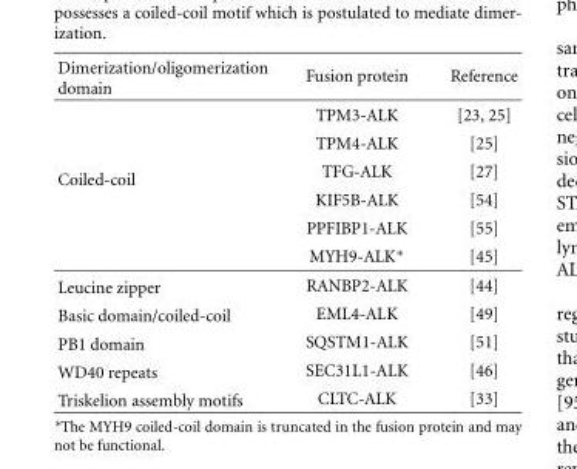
<table><thead><tr><td>Dimerization/oligomerization domain</td><td>Fusion protein</td><td>Reference</td></tr></thead><tbody><tr><td rowspan="6">Coiled-coil</td><td>TPM3-ALK</td><td>[23, 25]</td></tr><tr><td>TPM4-ALK</td><td>[25]</td></tr><tr><td>TFG-ALK</td><td>[27]</td></tr><tr><td>KIF5B-ALK</td><td>[54]</td></tr><tr><td>PPFIBP1-ALK</td><td>[55]</td></tr><tr><td>MYH9-ALK∗</td><td>[45]</td></tr><tr><td>Leucine zipper</td><td>RANBP2-ALK</td><td>[44]</td></tr><tr><td>Basic domain/coiled-coil</td><td>EML4-ALK</td><td>[49]</td></tr><tr><td>PB1 domain</td><td>SQSTM1-ALK</td><td>[51]</td></tr><tr><td>WD40 repeats</td><td>SEC31L1-ALK</td><td>[46]</td></tr><tr><td>Triskelion assembly motifs</td><td>CLTC-ALK</td><td>[33]</td></tr></tbody></table>